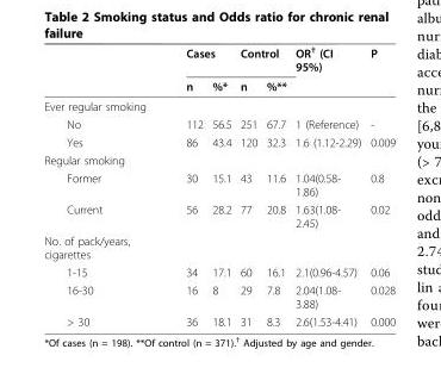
<table><thead><tr><td rowspan="2"></td><td colspan="2">Cases</td><td colspan="2">Control</td><td rowspan="2">OR<sup>†</sup> (CI 95%)</td><td rowspan="2">P</td></tr><tr><td>n</td><td>%*</td><td>n</td><td>%**</td></tr></thead><tbody><tr><td colspan="7">Ever regular smoking</td></tr><tr><td>No</td><td>112</td><td>56.5</td><td>251</td><td>67.7</td><td>1 (Reference)</td><td>-</td></tr><tr><td>Yes</td><td>86</td><td>43.4</td><td>120</td><td>32.3</td><td>1.6 (1.12-2.29)</td><td>0.009</td></tr><tr><td colspan="7">Regular smoking</td></tr><tr><td>Former</td><td>30</td><td>15.1</td><td>43</td><td>11.6</td><td>1.04(0.58- 1.86)</td><td>0.8</td></tr><tr><td>Current</td><td>56</td><td>28.2</td><td>77</td><td>20.8</td><td>1.63(1.08- 2.45)</td><td>0.02</td></tr><tr><td colspan="7">No. of pack/years, cigarettes</td></tr><tr><td>1-15</td><td>34</td><td>17.1</td><td>60</td><td>16.1</td><td>2.1(0.96-4.57)</td><td>0.06</td></tr><tr><td>16-30</td><td>16</td><td>8</td><td>29</td><td>7.8</td><td>2.04(1.08- 3.88)</td><td>0.028</td></tr><tr><td>&gt; 30</td><td>36</td><td>18.1</td><td>31</td><td>8.3</td><td>2.6(1.53-4.41)</td><td>0.000</td></tr></tbody></table>